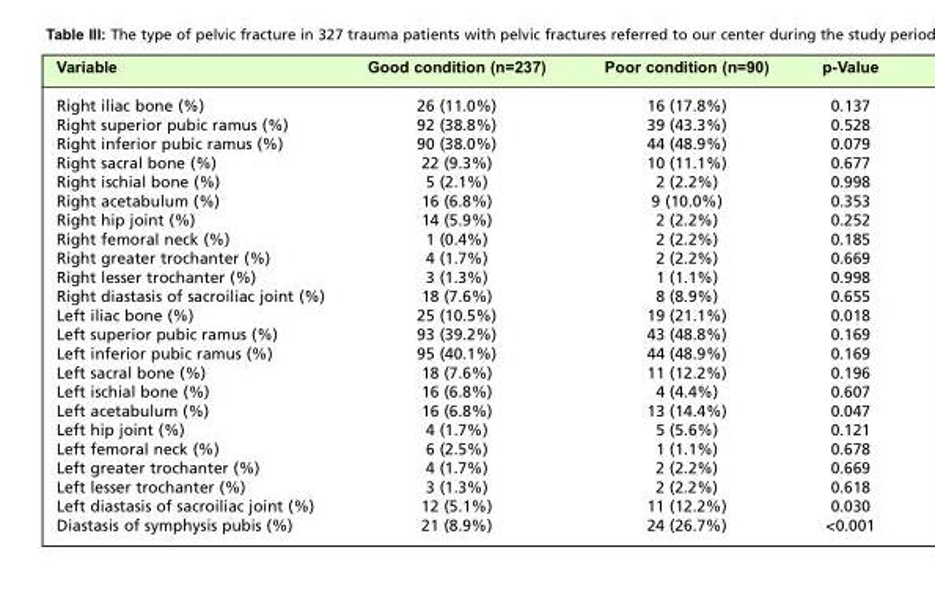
<table><thead><tr><td>Variable</td><td>Good condition (n=237)</td><td>Poor condition (n=90)</td><td>p-Value</td></tr></thead><tbody><tr><td>Right iliac bone (%)</td><td>26 (11.0%)</td><td>16 (17.8%)</td><td>0.137</td></tr><tr><td>Right superior pubic ramus (%)</td><td>92 (38.8%)</td><td>39 (43.3%)</td><td>0.528</td></tr><tr><td>Right inferior pubic ramus (%)</td><td>90 (38.0%)</td><td>44 (48.9%)</td><td>0.079</td></tr><tr><td>Right sacral bone (%)</td><td>22 (9.3%)</td><td>10 (11.1%)</td><td>0.677</td></tr><tr><td>Right ischial bone (%)</td><td>5 (2.1%)</td><td>2 (2.2%)</td><td>0.998</td></tr><tr><td>Right acetabulum (%)</td><td>16 (6.8%)</td><td>9 (10.0%)</td><td>0.353</td></tr><tr><td>Right hip joint (%)</td><td>14 (5.9%)</td><td>2 (2.2%)</td><td>0.252</td></tr><tr><td>Right femoral neck (%)</td><td>1 (0.4%)</td><td>2 (2.2%)</td><td>0.185</td></tr><tr><td>Right greater trochanter (%)</td><td>4 (1.7%)</td><td>2 (2.2%)</td><td>0.669</td></tr><tr><td>Right lesser trochanter (%)</td><td>3 (1.3%)</td><td>1 (1.1%)</td><td>0.998</td></tr><tr><td>Right diastasis of sacroiliac joint (%)</td><td>18 (7.6%)</td><td>8 (8.9%)</td><td>0.655</td></tr><tr><td>Left iliac bone (%)</td><td>25 (10.5%)</td><td>19 (21.1%)</td><td>0.018</td></tr><tr><td>Left superior pubic ramus (%)</td><td>93 (39.2%)</td><td>43 (48.8%)</td><td>0.169</td></tr><tr><td>Left inferior pubic ramus (%)</td><td>95 (40.1%)</td><td>44 (48.9%)</td><td>0.169</td></tr><tr><td>Left sacral bone (%)</td><td>18 (7.6%)</td><td>11 (12.2%)</td><td>0.196</td></tr><tr><td>Left ischial bone (%)</td><td>16 (6.8%)</td><td>4 (4.4%)</td><td>0.607</td></tr><tr><td>Left acetabulum (%)</td><td>16 (6.8%)</td><td>13 (14.4%)</td><td>0.047</td></tr><tr><td>Left hip joint (%)</td><td>4 (1.7%)</td><td>5 (5.6%)</td><td>0.121</td></tr><tr><td>Left femoral neck (%)</td><td>6 (2.5%)</td><td>1 (1.1%)</td><td>0.678</td></tr><tr><td>Left greater trochanter (%)</td><td>4 (1.7%)</td><td>2 (2.2%)</td><td>0.669</td></tr><tr><td>Left lesser trochanter (%)</td><td>3 (1.3%)</td><td>2 (2.2%)</td><td>0.618</td></tr><tr><td>Left diastasis of sacroiliac joint (%)</td><td>12 (5.1%)</td><td>11 (12.2%)</td><td>0.030</td></tr><tr><td>Diastasis of symphysis pubis (%)</td><td>21 (8.9%)</td><td>24 (26.7%)</td><td>&lt;0.001</td></tr></tbody></table>